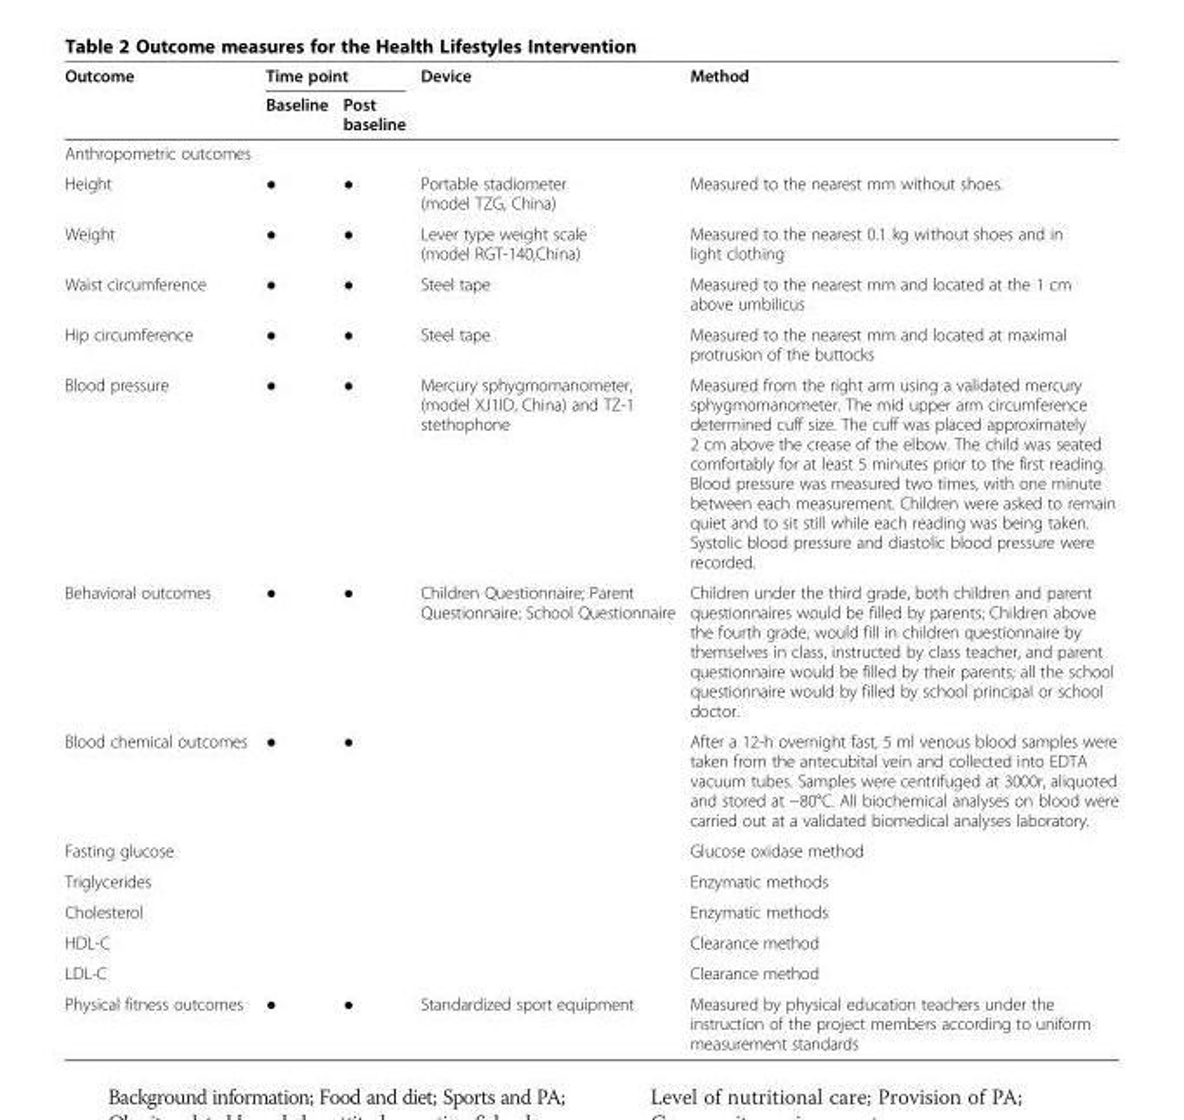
<table><thead><tr><td rowspan="2">Outcome</td><td colspan="2">Time point</td><td rowspan="2">Device</td><td rowspan="2">Method</td></tr><tr><td>Baseline</td><td>Post baseline</td></tr></thead><tbody><tr><td colspan="5">Anthropometric outcomes</td></tr><tr><td>Height</td><td>●</td><td>●</td><td>Portable stadiometer (model TZG, China)</td><td>Measured to the nearest mm without shoes.</td></tr><tr><td>Weight</td><td>●</td><td>●</td><td>Lever type weight scale (model RGT-140,China)</td><td>Measured to the nearest 0.1 kg without shoes and in light clothing</td></tr><tr><td>Waist circumference</td><td>●</td><td>●</td><td>Steel tape</td><td>Measured to the nearest mm and located at the 1 cm above umbilicus</td></tr><tr><td>Hip circumference</td><td>●</td><td>●</td><td>Steel tape</td><td>Measured to the nearest mm and located at maximal protrusion of the buttocks</td></tr><tr><td>Blood pressure</td><td>●</td><td>●</td><td>Mercury sphygmomanometer, (model XJ1ID, China) and TZ-1 stethophone</td><td>Measured from the right arm using a validated mercury sphygmomanometer. The mid upper arm circumference determined cuff size. The cuff was placed approximately 2 cm above the crease of the elbow. The child was seated comfortably for at least 5 minutes prior to the first reading. Blood pressure was measured two times, with one minute between each measurement. Children were asked to remain quiet and to sit still while each reading was being taken. Systolic blood pressure and diastolic blood pressure were recorded.</td></tr><tr><td>Behavioral outcomes</td><td>●</td><td>●</td><td>Children Questionnaire; Parent Questionnaire; School Questionnaire</td><td>Children under the third grade, both children and parent questionnaires would be filled by parents; Children above the fourth grade, would fill in children questionnaire by themselves in class, instructed by class teacher, and parent questionnaire would be filled by their parents; all the school questionnaire would by filled by school principal or school doctor.</td></tr><tr><td>Blood chemical outcomes</td><td>●</td><td>●</td><td></td><td>After a 12-h overnight fast, 5 ml venous blood samples were taken from the antecubital vein and collected into EDTA vacuum tubes. Samples were centrifuged at 3000r, aliquoted and stored at −80°C. All biochemical analyses on blood were carried out at a validated biomedical analyses laboratory.</td></tr><tr><td>Fasting glucose</td><td></td><td></td><td></td><td>Glucose oxidase method</td></tr><tr><td>Triglycerides</td><td></td><td></td><td></td><td>Enzymatic methods</td></tr><tr><td>Cholesterol</td><td></td><td></td><td></td><td>Enzymatic methods</td></tr><tr><td>HDL-C</td><td></td><td></td><td></td><td>Clearance method</td></tr><tr><td>LDL-C</td><td></td><td></td><td></td><td>Clearance method</td></tr><tr><td>Physical fitness outcomes</td><td>●</td><td>●</td><td>Standardized sport equipment</td><td>Measured by physical education teachers under the instruction of the project members according to uniform measurement standards</td></tr></tbody></table>